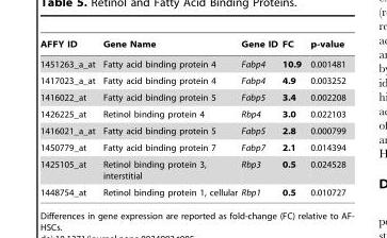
<table><thead><tr><td>AFFY ID</td><td>Gene Name</td><td>Gene ID</td><td>FC</td><td>p-value</td></tr></thead><tbody><tr><td>1451263_a_at</td><td>Fatty acid binding protein 4</td><td>Fabp4</td><td>10.9</td><td>0.001481</td></tr><tr><td>1417023_a_at</td><td>Fatty acid binding protein 4</td><td>Fabp4</td><td>4.9</td><td>0.003252</td></tr><tr><td>1416022_at</td><td>Fatty acid binding protein 5</td><td>Fabp5</td><td>3.4</td><td>0.002208</td></tr><tr><td>1426225_at</td><td>Retinol binding protein 4</td><td>Rbp4</td><td>3.0</td><td>0.022103</td></tr><tr><td>1416021_a_at</td><td>Fatty acid binding protein 5</td><td>Fabp5</td><td>2.8</td><td>0.000799</td></tr><tr><td>1450779_at</td><td>Fatty acid binding protein 7</td><td>Fabp7</td><td>2.1</td><td>0.014394</td></tr><tr><td>1425105_at</td><td>Retinol binding protein 3, interstitial</td><td>Rbp3</td><td>0.5</td><td>0.024528</td></tr><tr><td>1448754_at</td><td>Retinol binding protein 1, cellular</td><td>Rbp1</td><td>0.5</td><td>0.010727</td></tr></tbody></table>